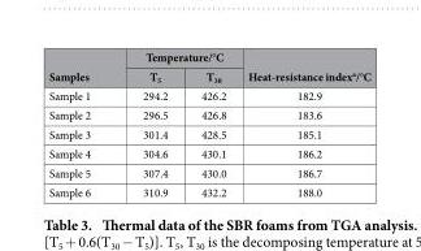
<table><thead><tr><td rowspan="2">Samples</td><td colspan="2">Temperature/°C</td><td rowspan="2">Heat-resistance index<sup>a</sup>/°C</td></tr><tr><td>T<sub>5</sub></td><td>T<sub>30</sub></td></tr></thead><tbody><tr><td>Sample 1</td><td>294.2</td><td>426.2</td><td>182.9</td></tr><tr><td>Sample 2</td><td>296.5</td><td>426.8</td><td>183.6</td></tr><tr><td>Sample 3</td><td>301.4</td><td>428.5</td><td>185.1</td></tr><tr><td>Sample 4</td><td>304.6</td><td>430.1</td><td>186.2</td></tr><tr><td>Sample 5</td><td>307.4</td><td>430.0</td><td>186.7</td></tr><tr><td>Sample 6</td><td>310.9</td><td>432.2</td><td>188.0</td></tr></tbody></table>